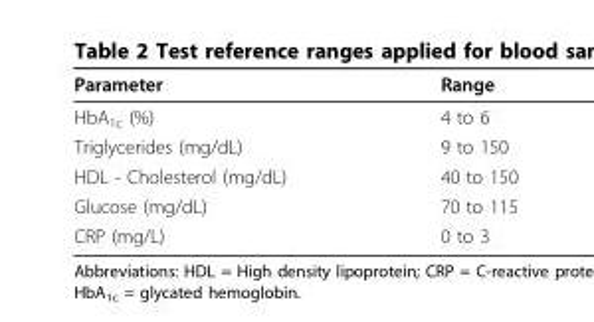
<table><thead><tr><td>Parameter</td><td>Range</td></tr></thead><tbody><tr><td>HbA<sub>1c</sub> (%)</td><td>4 to 6</td></tr><tr><td>Triglycerides (mg/dL)</td><td>9 to 150</td></tr><tr><td>HDL - Cholesterol (mg/dL)</td><td>40 to 150</td></tr><tr><td>Glucose (mg/dL)</td><td>70 to 115</td></tr><tr><td>CRP (mg/L)</td><td>0 to 3</td></tr></tbody></table>